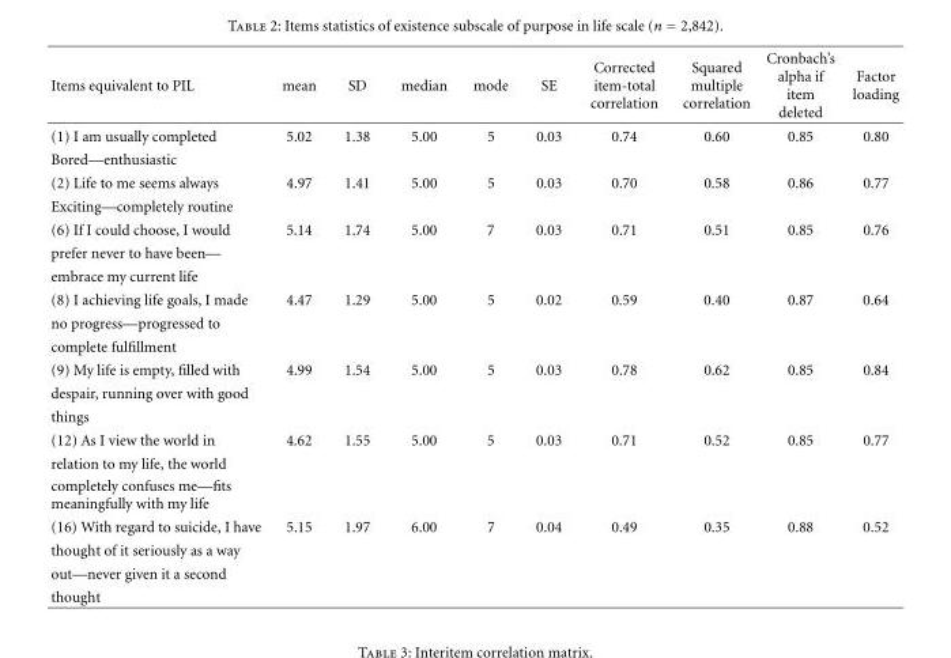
<table><thead><tr><td>Items equivalent to PIL</td><td>mean</td><td>SD</td><td>median</td><td>mode</td><td>SE</td><td>Corrected item-total correlation</td><td>Squared multiple correlation</td><td>Cronbach’s alpha if item deleted</td><td>Factor loading</td></tr></thead><tbody><tr><td>(1) I am usually completed</td><td>5.02</td><td>1.38</td><td>5.00</td><td>5</td><td>0.03</td><td>0.74</td><td>0.60</td><td>0.85</td><td>0.80</td></tr><tr><td colspan="10">Bored—enthusiastic</td></tr><tr><td>(2) Life to me seems always</td><td>4.97</td><td>1.41</td><td>5.00</td><td>5</td><td>0.03</td><td>0.70</td><td>0.58</td><td>0.86</td><td>0.77</td></tr><tr><td colspan="10">Exciting—completely routine</td></tr><tr><td>(6) If I could choose, I would</td><td>5.14</td><td>1.74</td><td>5.00</td><td>7</td><td>0.03</td><td>0.71</td><td>0.51</td><td>0.85</td><td>0.76</td></tr><tr><td colspan="10">prefer never to have been—</td></tr><tr><td colspan="10">embrace my current life</td></tr><tr><td>(8) I achieving life goals, I made</td><td>4.47</td><td>1.29</td><td>5.00</td><td>5</td><td>0.02</td><td>0.59</td><td>0.40</td><td>0.87</td><td>0.64</td></tr><tr><td colspan="10">no progress—progressed to</td></tr><tr><td colspan="10">complete fulfillment</td></tr><tr><td>(9) My life is empty, filled with</td><td>4.99</td><td>1.54</td><td>5.00</td><td>5</td><td>0.03</td><td>0.78</td><td>0.62</td><td>0.85</td><td>0.84</td></tr><tr><td colspan="10">despair, running over with good</td></tr><tr><td colspan="10">things</td></tr><tr><td>(12) As I view the world in</td><td>4.62</td><td>1.55</td><td>5.00</td><td>5</td><td>0.03</td><td>0.71</td><td>0.52</td><td>0.85</td><td>0.77</td></tr><tr><td colspan="10">relation to my life, the world</td></tr><tr><td colspan="10">completely confuses me—fits</td></tr><tr><td colspan="10">meaningfully with my life</td></tr><tr><td>(16) With regard to suicide, I have</td><td>5.15</td><td>1.97</td><td>6.00</td><td>7</td><td>0.04</td><td>0.49</td><td>0.35</td><td>0.88</td><td>0.52</td></tr><tr><td colspan="10">thought of it seriously as a way</td></tr><tr><td colspan="10">out—never given it a second</td></tr><tr><td>thought</td><td></td><td></td><td></td><td></td><td></td><td></td><td></td><td></td><td></td></tr></tbody></table>